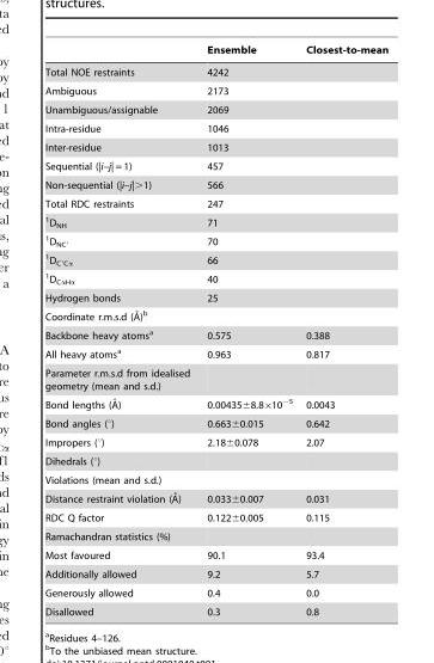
<table><thead><tr><td></td><td>Ensemble</td><td>Closest-to-mean</td></tr></thead><tbody><tr><td>Total NOE restraints</td><td colspan="2">4242</td></tr><tr><td>Ambiguous</td><td colspan="2">2173</td></tr><tr><td>Unambiguous/assignable</td><td colspan="2">2069</td></tr><tr><td>Intra-residue</td><td colspan="2">1046</td></tr><tr><td>Inter-residue</td><td colspan="2">1013</td></tr><tr><td>Sequential (|i–j| = 1)</td><td colspan="2">457</td></tr><tr><td>Non-sequential (|i–j|&gt;1)</td><td colspan="2">566</td></tr><tr><td>Total RDC restraints</td><td colspan="2">247</td></tr><tr><td><sup>1</sup>D<sub>NH</sub></td><td colspan="2">71</td></tr><tr><td><sup>1</sup>D<sub>NC′</sub></td><td colspan="2">70</td></tr><tr><td><sup>1</sup>D<sub>C′Cα</sub></td><td colspan="2">66</td></tr><tr><td><sup>1</sup>D<sub>CαHα</sub></td><td colspan="2">40</td></tr><tr><td>Hydrogen bonds</td><td colspan="2">25</td></tr><tr><td colspan="3">Coordinate r.m.s.d (A˚)b</td></tr><tr><td>Backbone heavy atoms<sup>a</sup></td><td>0.575</td><td>0.388</td></tr><tr><td>All heavy atoms<sup>a</sup></td><td>0.963</td><td>0.817</td></tr><tr><td colspan="3">Parameter r.m.s.d from idealised geometry (mean and s.d.)</td></tr><tr><td>Bond lengths (A˚)</td><td>0.00435±8.8×10<sup>−5</sup></td><td>0.0043</td></tr><tr><td>Bond angles (°)</td><td>0.663±0.015</td><td>0.642</td></tr><tr><td>Impropers (°)</td><td>2.18±0.078</td><td>2.07</td></tr><tr><td colspan="3">Dihedrals (°)</td></tr><tr><td colspan="3">Violations (mean and s.d.)</td></tr><tr><td>Distance restraint violation (A˚)</td><td>0.033±0.007</td><td>0.031</td></tr><tr><td>RDC Q factor</td><td>0.122±0.005</td><td>0.115</td></tr><tr><td colspan="3">Ramachandran statistics (%)</td></tr><tr><td>Most favoured</td><td>90.1</td><td>93.4</td></tr><tr><td>Additionally allowed</td><td>9.2</td><td>5.7</td></tr><tr><td>Generously allowed</td><td>0.4</td><td>0.0</td></tr><tr><td>Disallowed</td><td>0.3</td><td>0.8</td></tr></tbody></table>